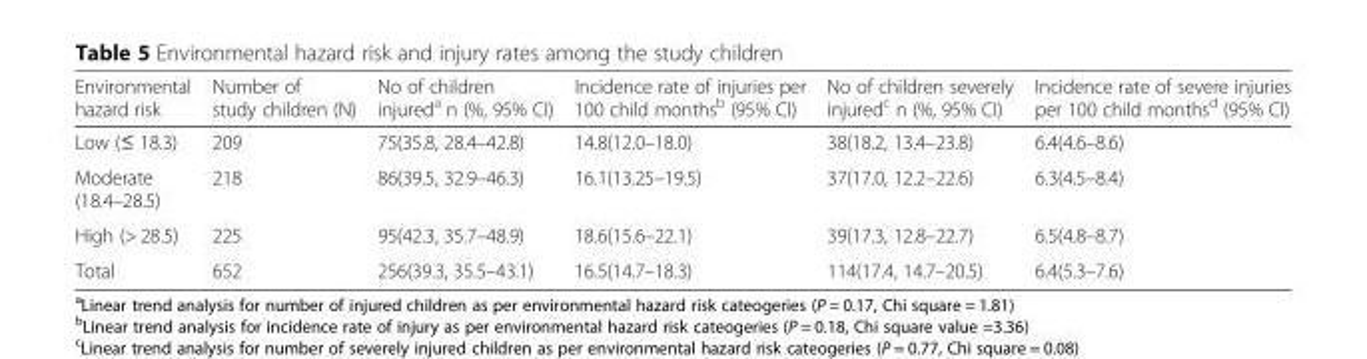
<table><thead><tr><td>Environmental hazard risk</td><td>Number of study children (N)</td><td>No of children injured<sup>a</sup> n (%, 95% CI)</td><td>Incidence rate of injuries per 100 child months<sup>b</sup> (95% CI)</td><td>No of children severely injured<sup>c</sup> n (%, 95% CI)</td><td>Incidence rate of severe injuries per 100 child months<sup>d</sup> (95% CI)</td></tr></thead><tbody><tr><td>Low (≤ 18.3)</td><td>209</td><td>75(35.8, 28.4–42.8)</td><td>14.8(12.0–18.0)</td><td>38(18.2, 13.4–23.8)</td><td>6.4(4.6–8.6)</td></tr><tr><td>Moderate (18.4–28.5)</td><td>218</td><td>86(39.5, 32.9–46.3)</td><td>16.1(13.25–19.5)</td><td>37(17.0, 12.2–22.6)</td><td>6.3(4.5–8.4)</td></tr><tr><td>High (&gt; 28.5)</td><td>225</td><td>95(42.3, 35.7–48.9)</td><td>18.6(15.6–22.1)</td><td>39(17.3, 12.8–22.7)</td><td>6.5(4.8–8.7)</td></tr><tr><td>Total</td><td>652</td><td>256(39.3, 35.5–43.1)</td><td>16.5(14.7–18.3)</td><td>114(17.4, 14.7–20.5)</td><td>6.4(5.3–7.6)</td></tr></tbody></table>